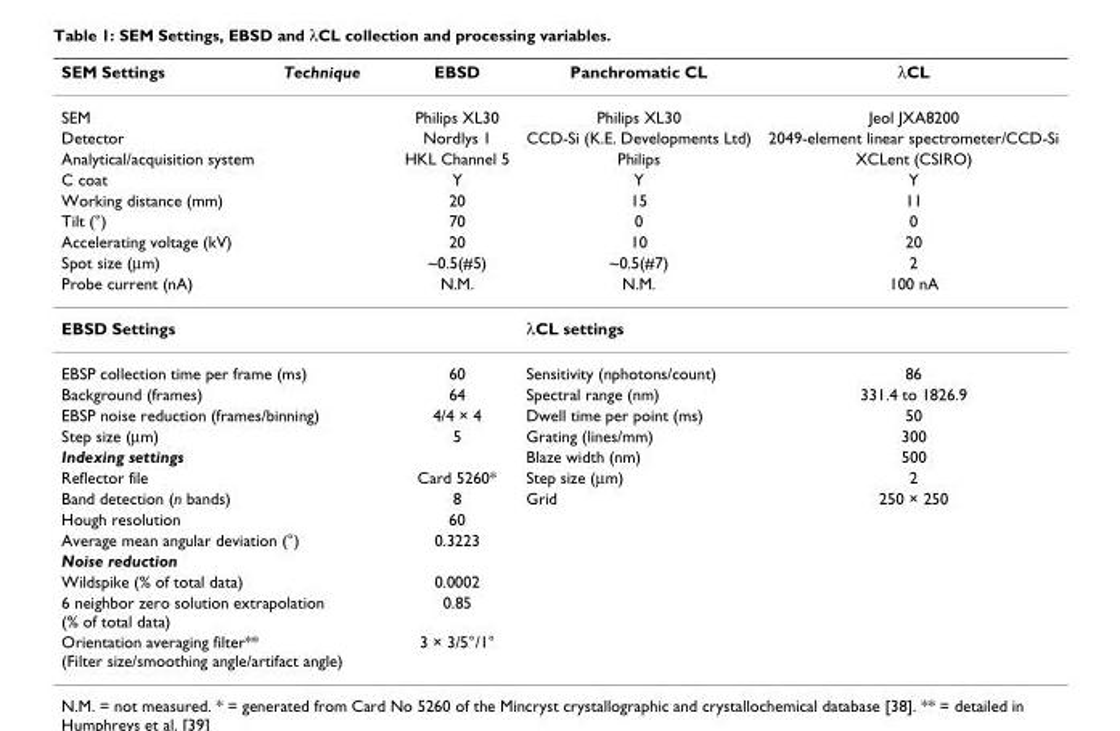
<table><thead><tr><td>SEM Settings</td><td>Technique</td><td>EBSD</td><td>Panchromatic CL</td><td>λCL</td></tr></thead><tbody><tr><td colspan="2">SEM</td><td>Philips XL30</td><td>Philips XL30</td><td>Jeol JXA8200</td></tr><tr><td colspan="2">Detector</td><td>Nordlys 1</td><td>CCD-Si (K.E. Developments Ltd)</td><td>2049-element linear spectrometer/CCD-Si</td></tr><tr><td colspan="2">Analytical/acquisition system</td><td>HKL Channel 5</td><td>Philips</td><td>XCLent (CSIRO)</td></tr><tr><td colspan="2">C coat</td><td>Y</td><td>Y</td><td>Y</td></tr><tr><td colspan="2">Working distance (mm)</td><td>20</td><td>15</td><td>11</td></tr><tr><td colspan="2">Tilt (°)</td><td>70</td><td>0</td><td>0</td></tr><tr><td colspan="2">Accelerating voltage (kV)</td><td>20</td><td>10</td><td>20</td></tr><tr><td colspan="2">Spot size (μm)</td><td>~0.5(#5)</td><td>~0.5(#7)</td><td>2</td></tr><tr><td colspan="2">Probe current (nA)</td><td>N.M.</td><td>N.M.</td><td>100 nA</td></tr><tr><td colspan="3">EBSD Settings</td><td colspan="2">λCL settings</td></tr><tr><td colspan="2">EBSP collection time per frame (ms)</td><td>60</td><td>Sensitivity (nphotons/count)</td><td>86</td></tr><tr><td colspan="2">Background (frames)</td><td>64</td><td>Spectral range (nm)</td><td>331.4 to 1826.9</td></tr><tr><td colspan="2">EBSP noise reduction (frames/binning)</td><td>4/4 × 4</td><td>Dwell time per point (ms)</td><td>50</td></tr><tr><td colspan="2">Step size (μm)</td><td>5</td><td>Grating (lines/mm)</td><td>300</td></tr><tr><td colspan="2">Indexing settings</td><td></td><td>Blaze width (nm)</td><td>500</td></tr><tr><td colspan="2">Reflector file</td><td>Card 5260*</td><td>Step size (μm)</td><td>2</td></tr><tr><td colspan="2">Band detection (n bands)</td><td>8</td><td>Grid</td><td>250 × 250</td></tr><tr><td colspan="2">Hough resolution</td><td>60</td><td></td><td></td></tr><tr><td colspan="2">Average mean angular deviation (°)</td><td>0.3223</td><td></td><td></td></tr><tr><td colspan="5">Noise reduction</td></tr><tr><td colspan="2">Wildspike (% of total data)</td><td>0.0002</td><td></td><td></td></tr><tr><td colspan="2">6 neighbor zero solution extrapolation (% of total data)</td><td>0.85</td><td></td><td></td></tr><tr><td colspan="2">Orientation averaging filter** (Filter size/smoothing angle/artifact angle)</td><td>3 × 3/5°/1°</td><td></td><td></td></tr></tbody></table>